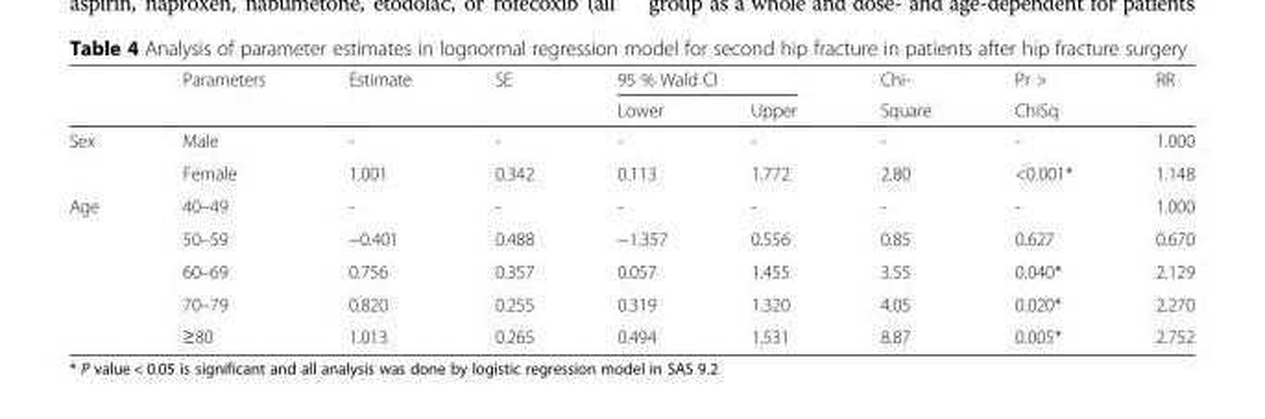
<table><thead><tr><td rowspan="2"></td><td rowspan="2">Parameters</td><td rowspan="2">Estimate</td><td rowspan="2">SE</td><td colspan="2">95 % Wald CI</td><td rowspan="2">Chi- Square</td><td rowspan="2">Pr &gt; ChiSq</td><td rowspan="2">RR</td></tr><tr><td>Lower</td><td>Upper</td></tr></thead><tbody><tr><td rowspan="2">Sex</td><td>Male</td><td>-</td><td>-</td><td>-</td><td>-</td><td>-</td><td>-</td><td>1.000</td></tr><tr><td>Female</td><td>1.001</td><td>0.342</td><td>0.113</td><td>1.772</td><td>2.80</td><td>&lt;0.001*</td><td>1.148</td></tr><tr><td rowspan="5">Age</td><td>40–49</td><td>-</td><td>-</td><td>-</td><td>-</td><td>-</td><td>-</td><td>1.000</td></tr><tr><td>50–59</td><td>−0.401</td><td>0.488</td><td>−1.357</td><td>0.556</td><td>0.85</td><td>0.627</td><td>0.670</td></tr><tr><td>60–69</td><td>0.756</td><td>0.357</td><td>0.057</td><td>1.455</td><td>3.55</td><td>0.040*</td><td>2.129</td></tr><tr><td>70–79</td><td>0.820</td><td>0.255</td><td>0.319</td><td>1.320</td><td>4.05</td><td>0.020*</td><td>2.270</td></tr><tr><td>≥80</td><td>1.013</td><td>0.265</td><td>0.494</td><td>1.531</td><td>8.87</td><td>0.005*</td><td>2.752</td></tr></tbody></table>